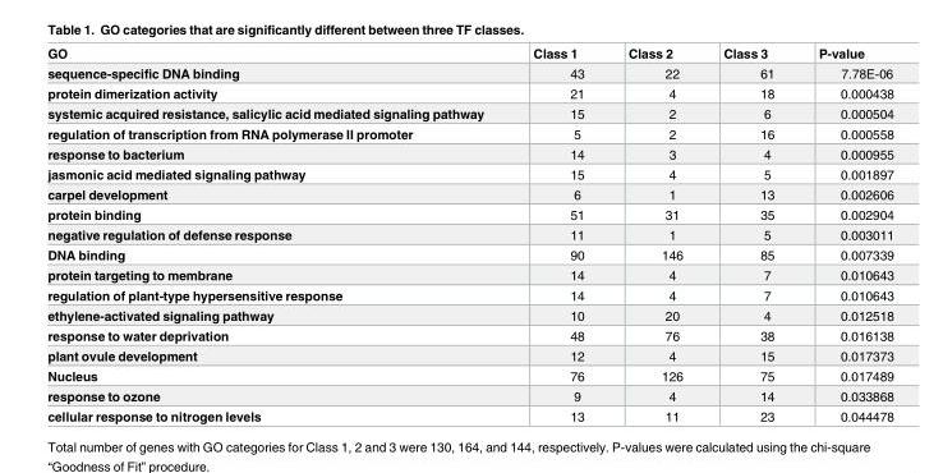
<table><thead><tr><td>GO</td><td>Class 1</td><td>Class 2</td><td>Class 3</td><td>P-value</td></tr></thead><tbody><tr><td>sequence-specific DNA binding</td><td>43</td><td>22</td><td>61</td><td>7.78E-06</td></tr><tr><td>protein dimerization activity</td><td>21</td><td>4</td><td>18</td><td>0.000438</td></tr><tr><td>systemic acquired resistance, salicylic acid mediated signaling pathway</td><td>15</td><td>2</td><td>6</td><td>0.000504</td></tr><tr><td>regulation of transcription from RNA polymerase II promoter</td><td>5</td><td>2</td><td>16</td><td>0.000558</td></tr><tr><td>response to bacterium</td><td>14</td><td>3</td><td>4</td><td>0.000955</td></tr><tr><td>jasmonic acid mediated signaling pathway</td><td>15</td><td>4</td><td>5</td><td>0.001897</td></tr><tr><td>carpel development</td><td>6</td><td>1</td><td>13</td><td>0.002606</td></tr><tr><td>protein binding</td><td>51</td><td>31</td><td>35</td><td>0.002904</td></tr><tr><td>negative regulation of defense response</td><td>11</td><td>1</td><td>5</td><td>0.003011</td></tr><tr><td>DNA binding</td><td>90</td><td>146</td><td>85</td><td>0.007339</td></tr><tr><td>protein targeting to membrane</td><td>14</td><td>4</td><td>7</td><td>0.010643</td></tr><tr><td>regulation of plant-type hypersensitive response</td><td>14</td><td>4</td><td>7</td><td>0.010643</td></tr><tr><td>ethylene-activated signaling pathway</td><td>10</td><td>20</td><td>4</td><td>0.012518</td></tr><tr><td>response to water deprivation</td><td>48</td><td>76</td><td>38</td><td>0.016138</td></tr><tr><td>plant ovule development</td><td>12</td><td>4</td><td>15</td><td>0.017373</td></tr><tr><td>Nucleus</td><td>76</td><td>126</td><td>75</td><td>0.017489</td></tr><tr><td>response to ozone</td><td>9</td><td>4</td><td>14</td><td>0.033868</td></tr><tr><td>cellular response to nitrogen levels</td><td>13</td><td>11</td><td>23</td><td>0.044478</td></tr></tbody></table>